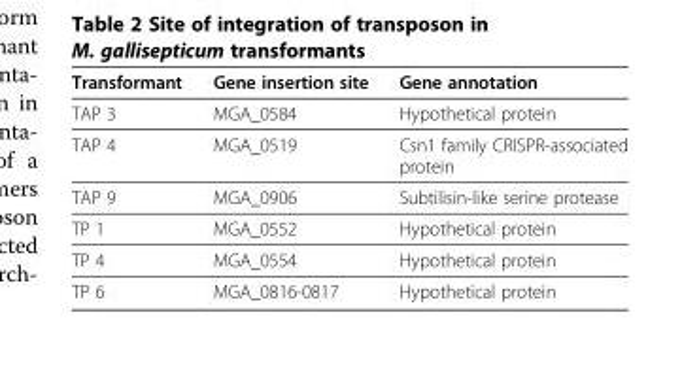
<table><thead><tr><td>Transformant</td><td>Gene insertion site</td><td>Gene annotation</td></tr></thead><tbody><tr><td>TAP 3</td><td>MGA_0584</td><td>Hypothetical protein</td></tr><tr><td>TAP 4</td><td>MGA_0519</td><td>Csn1 family CRISPR-associated protein</td></tr><tr><td>TAP 9</td><td>MGA_0906</td><td>Subtilisin-like serine protease</td></tr><tr><td>TP 1</td><td>MGA_0552</td><td>Hypothetical protein</td></tr><tr><td>TP 4</td><td>MGA_0554</td><td>Hypothetical protein</td></tr><tr><td>TP 6</td><td>MGA_0816-0817</td><td>Hypothetical protein</td></tr></tbody></table>